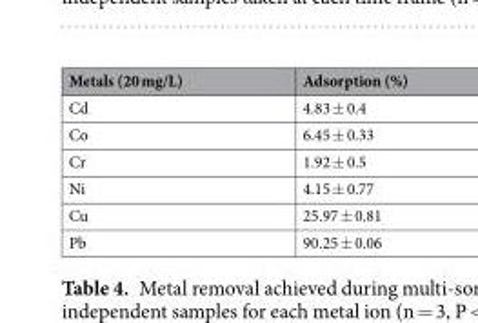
<table><thead><tr><td>Metals (20 mg/L)</td><td>Adsorption (%)</td></tr></thead><tbody><tr><td>Cd</td><td>4.83 ± 0.4</td></tr><tr><td>Co</td><td>6.45 ± 0.33</td></tr><tr><td>Cr</td><td>1.92 ± 0.5</td></tr><tr><td>Ni</td><td>4.15 ± 0.77</td></tr><tr><td>Cu</td><td>25.97 ± 0.81</td></tr><tr><td>Pb</td><td>90.25 ± 0.06</td></tr></tbody></table>